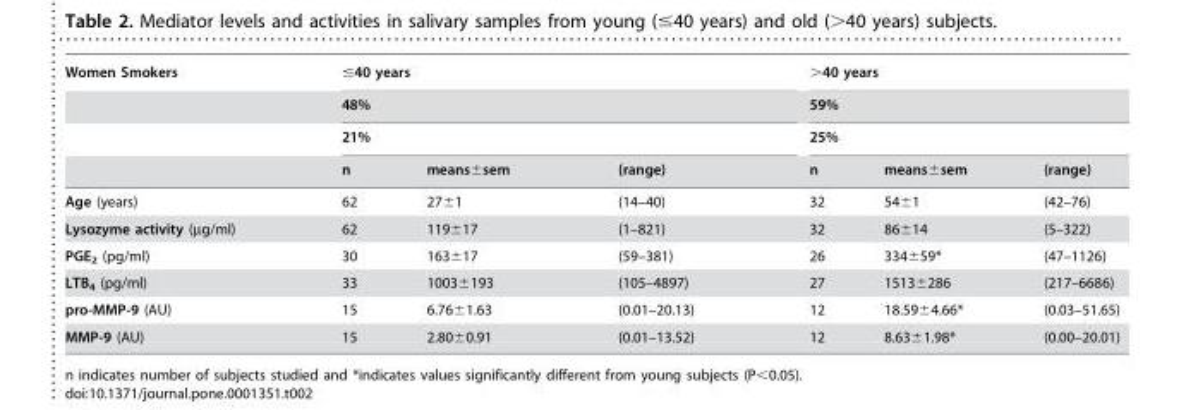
<table><thead><tr><td rowspan="4">Women Smokers</td><td rowspan="3" colspan="3">≤40 years 48% 21%</td><td rowspan="3" colspan="3">&gt;40 years 59% 25%</td></tr><tr></tr><tr></tr><tr><td>n</td><td>means±sem</td><td>(range)</td><td>n</td><td>means±sem</td><td>(range)</td></tr></thead><tbody><tr><td>Age (years)</td><td>62</td><td>27±1</td><td>(14–40)</td><td>32</td><td>54±1</td><td>(42–76)</td></tr><tr><td>Lysozyme activity (µg/ml)</td><td>62</td><td>119±17</td><td>(1–821)</td><td>32</td><td>86±14</td><td>(5–322)</td></tr><tr><td>PGE<sub>2</sub> (pg/ml)</td><td>30</td><td>163±17</td><td>(59–381)</td><td>26</td><td>334±59*</td><td>(47–1126)</td></tr><tr><td>LTB<sub>4</sub> (pg/ml)</td><td>33</td><td>1003±193</td><td>(105–4897)</td><td>27</td><td>1513±286</td><td>(217–6686)</td></tr><tr><td>pro-MMP-9 (AU)</td><td>15</td><td>6.76±1.63</td><td>(0.01–20.13)</td><td>12</td><td>18.59±4.66*</td><td>(0.03–51.65)</td></tr><tr><td>MMP-9 (AU)</td><td>15</td><td>2.80±0.91</td><td>(0.01–13.52)</td><td>12</td><td>8.63±1.98*</td><td>(0.00–20.01)</td></tr></tbody></table>